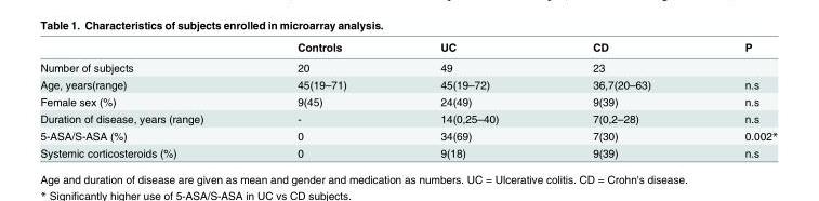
<table><thead><tr><td></td><td>Controls</td><td>UC</td><td>CD</td><td>P</td></tr></thead><tbody><tr><td>Number of subjects</td><td>20</td><td>49</td><td>23</td><td></td></tr><tr><td>Age, years(range)</td><td>45(19–71)</td><td>45(19–72)</td><td>36,7(20–63)</td><td>n.s</td></tr><tr><td>Female sex (%)</td><td>9(45)</td><td>24(49)</td><td>9(39)</td><td>n.s</td></tr><tr><td>Duration of disease, years (range)</td><td>-</td><td>14(0,25–40)</td><td>7(0,2–28)</td><td>n.s</td></tr><tr><td>5-ASA/S-ASA (%)</td><td>0</td><td>34(69)</td><td>7(30)</td><td>0.002*</td></tr><tr><td>Systemic corticosteroids (%)</td><td>0</td><td>9(18)</td><td>9(39)</td><td>n.s</td></tr></tbody></table>